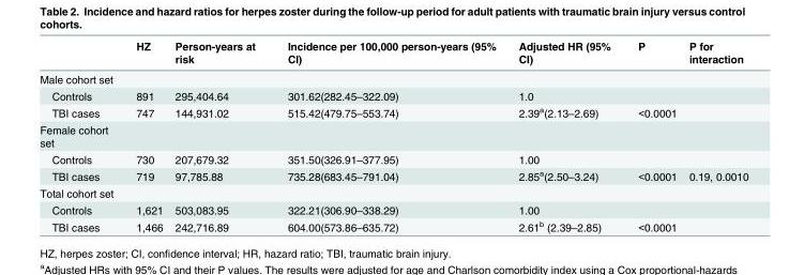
<table><thead><tr><td></td><td>HZ</td><td>Person-years at risk</td><td>Incidence per 100,000 person-years (95% CI)</td><td>Adjusted HR (95% CI)</td><td>P</td><td>P for interaction</td></tr></thead><tbody><tr><td colspan="7">Male cohort set</td></tr><tr><td>Controls</td><td>891</td><td>295,404.64</td><td>301.62(282.45–322.09)</td><td>1.0</td><td></td><td></td></tr><tr><td>TBI cases</td><td>747</td><td>144,931.02</td><td>515.42(479.75–553.74)</td><td>2.39<sup>a</sup>(2.13–2.69)</td><td>&lt;0.0001</td><td></td></tr><tr><td colspan="7">Female cohort set</td></tr><tr><td>Controls</td><td>730</td><td>207,679.32</td><td>351.50(326.91–377.95)</td><td>1.00</td><td></td><td></td></tr><tr><td>TBI cases</td><td>719</td><td>97,785.88</td><td>735.28(683.45–791.04)</td><td>2.85<sup>a</sup>(2.50–3.24)</td><td>&lt;0.0001</td><td>0.19, 0.0010</td></tr><tr><td colspan="7">Total cohort set</td></tr><tr><td>Controls</td><td>1,621</td><td>503,083.95</td><td>322.21(306.90–338.29)</td><td>1.00</td><td></td><td></td></tr><tr><td>TBI cases</td><td>1,466</td><td>242,716.89</td><td>604.00(573.86–635.72)</td><td>2.61<sup>b</sup> (2.39–2.85)</td><td>&lt;0.0001</td><td></td></tr></tbody></table>